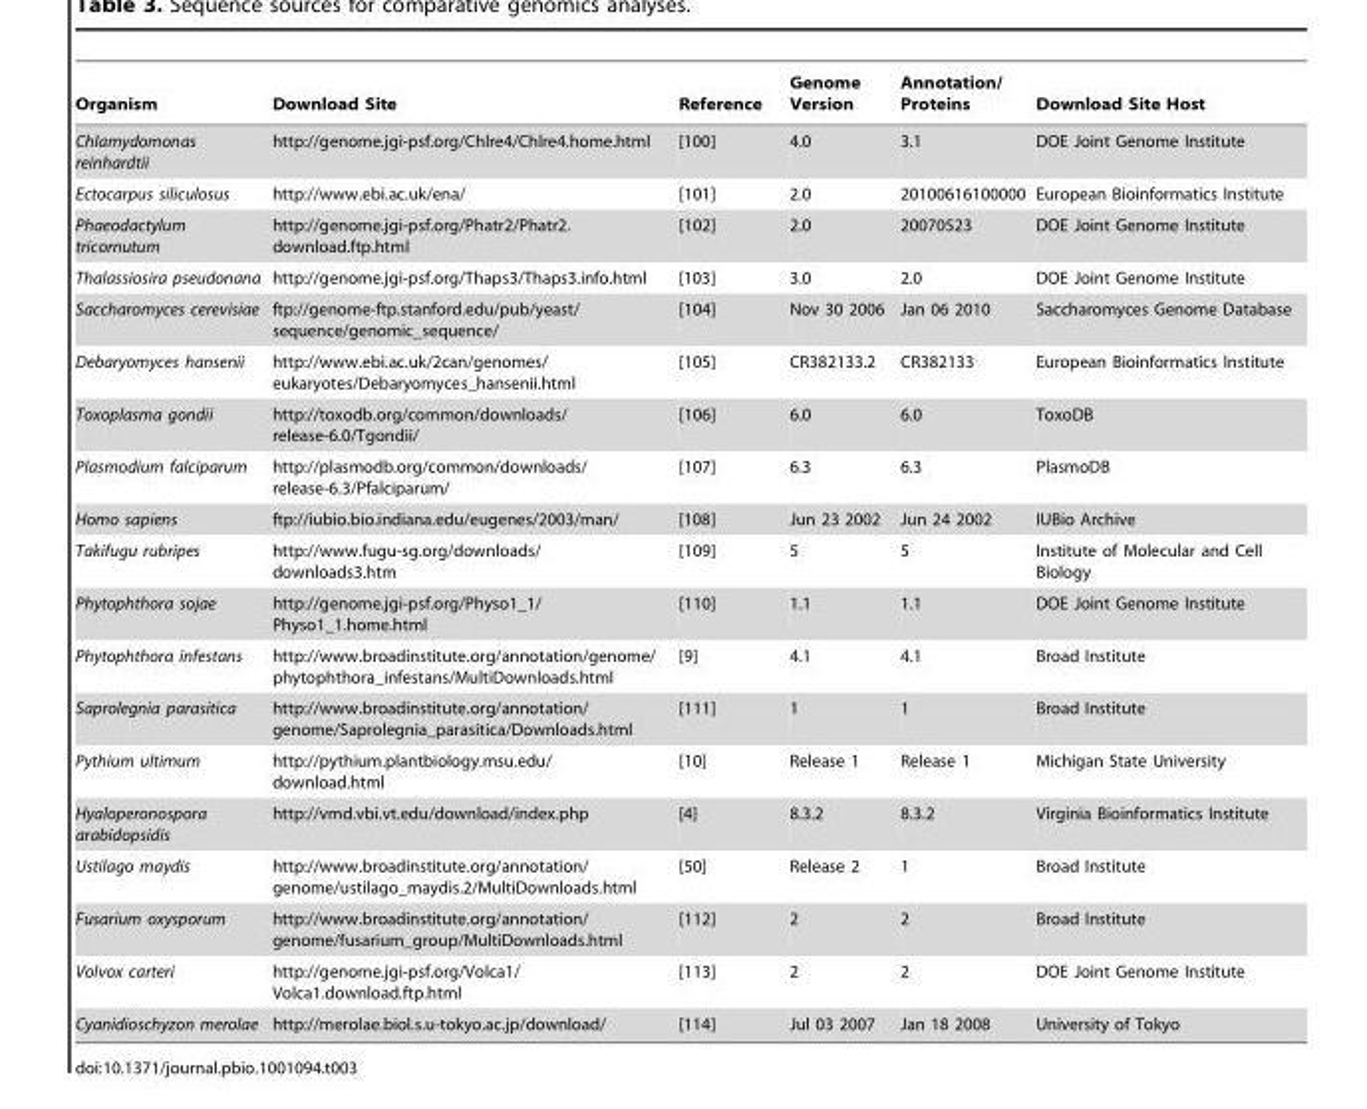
<table><thead><tr><td>Organism</td><td>Download Site</td><td>Reference</td><td>Genome Version</td><td>Annotation/ Proteins</td><td>Download Site Host</td></tr></thead><tbody><tr><td>Chlamydomonas reinhardtii</td><td>http://genome.jgi-psf.org/Chlre4/Chlre4.home.html</td><td>[100]</td><td>4.0</td><td>3.1</td><td>DOE Joint Genome Institute</td></tr><tr><td>Ectocarpus siliculosus</td><td>http://www.ebi.ac.uk/ena/</td><td>[101]</td><td>2.0</td><td>20100616100000</td><td>European Bioinformatics Institute</td></tr><tr><td>Phaeodactylum tricornutum</td><td>http://genome.jgi-psf.org/Phatr2/Phatr2. download.ftp.html</td><td>[102]</td><td>2.0</td><td>20070523</td><td>DOE Joint Genome Institute</td></tr><tr><td>Thalassiosira pseudonana</td><td>http://genome.jgi-psf.org/Thaps3/Thaps3.info.html</td><td>[103]</td><td>3.0</td><td>2.0</td><td>DOE Joint Genome Institute</td></tr><tr><td>Saccharomyces cerevisiae</td><td>ftp://genome-ftp.stanford.edu/pub/yeast/ sequence/genomic_sequence/</td><td>[104]</td><td>Nov 30 2006</td><td>Jan 06 2010</td><td>Saccharomyces Genome Database</td></tr><tr><td>Debaryomyces hansenii</td><td>http://www.ebi.ac.uk/2can/genomes/ eukaryotes/Debaryomyces_hansenii.html</td><td>[105]</td><td>CR382133.2</td><td>CR382133</td><td>European Bioinformatics Institute</td></tr><tr><td>Toxoplasma gondii</td><td>http://toxodb.org/common/downloads/ release-6.0/Tgondii/</td><td>[106]</td><td>6.0</td><td>6.0</td><td>ToxoDB</td></tr><tr><td>Plasmodium falciparum</td><td>http://plasmodb.org/common/downloads/ release-6.3/Pfalciparum/</td><td>[107]</td><td>6.3</td><td>6.3</td><td>PlasmoDB</td></tr><tr><td>Homo sapiens</td><td>ftp://iubio.bio.indiana.edu/eugenes/2003/man/</td><td>[108]</td><td>Jun 23 2002</td><td>Jun 24 2002</td><td>IUBio Archive</td></tr><tr><td>Takifugu rubripes</td><td>http://www.fugu-sg.org/downloads/ downloads3.htm</td><td>[109]</td><td>5</td><td>5</td><td>Institute of Molecular and Cell Biology</td></tr><tr><td>Phytophthora sojae</td><td>http://genome.jgi-psf.org/Physo1_1/ Physo1_1.home.html</td><td>[110]</td><td>1.1</td><td>1.1</td><td>DOE Joint Genome Institute</td></tr><tr><td>Phytophthora infestans</td><td>http://www.broadinstitute.org/annotation/genome/ phytophthora_infestans/MultiDownloads.html</td><td>[9]</td><td>4.1</td><td>4.1</td><td>Broad Institute</td></tr><tr><td>Saprolegnia parasitica</td><td>http://www.broadinstitute.org/annotation/ genome/Saprolegnia_parasitica/Downloads.html</td><td>[111]</td><td>1</td><td>1</td><td>Broad Institute</td></tr><tr><td>Pythium ultimum</td><td>http://pythium.plantbiology.msu.edu/ download.html</td><td>[10]</td><td>Release 1</td><td>Release 1</td><td>Michigan State University</td></tr><tr><td>Hyaloperonospora arabidopsidis</td><td>http://vmd.vbi.vt.edu/download/index.php</td><td>[4]</td><td>8.3.2</td><td>8.3.2</td><td>Virginia Bioinformatics Institute</td></tr><tr><td>Ustilago maydis</td><td>http://www.broadinstitute.org/annotation/ genome/ustilago_maydis.2/MultiDownloads.html</td><td>[50]</td><td>Release 2</td><td>1</td><td>Broad Institute</td></tr><tr><td>Fusarium oxysporum</td><td>http://www.broadinstitute.org/annotation/ genome/fusarium_group/MultiDownloads.html</td><td>[112]</td><td>2</td><td>2</td><td>Broad Institute</td></tr><tr><td>Volvox carteri</td><td>http://genome.jgi-psf.org/Volca1/ Volca1.download.ftp.html</td><td>[113]</td><td>2</td><td>2</td><td>DOE Joint Genome Institute</td></tr><tr><td>Cyanidioschyzon merolae</td><td>http://merolae.biol.s.u-tokyo.ac.jp/download/</td><td>[114]</td><td>Jul 03 2007</td><td>Jan 18 2008</td><td>University of Tokyo</td></tr></tbody></table>